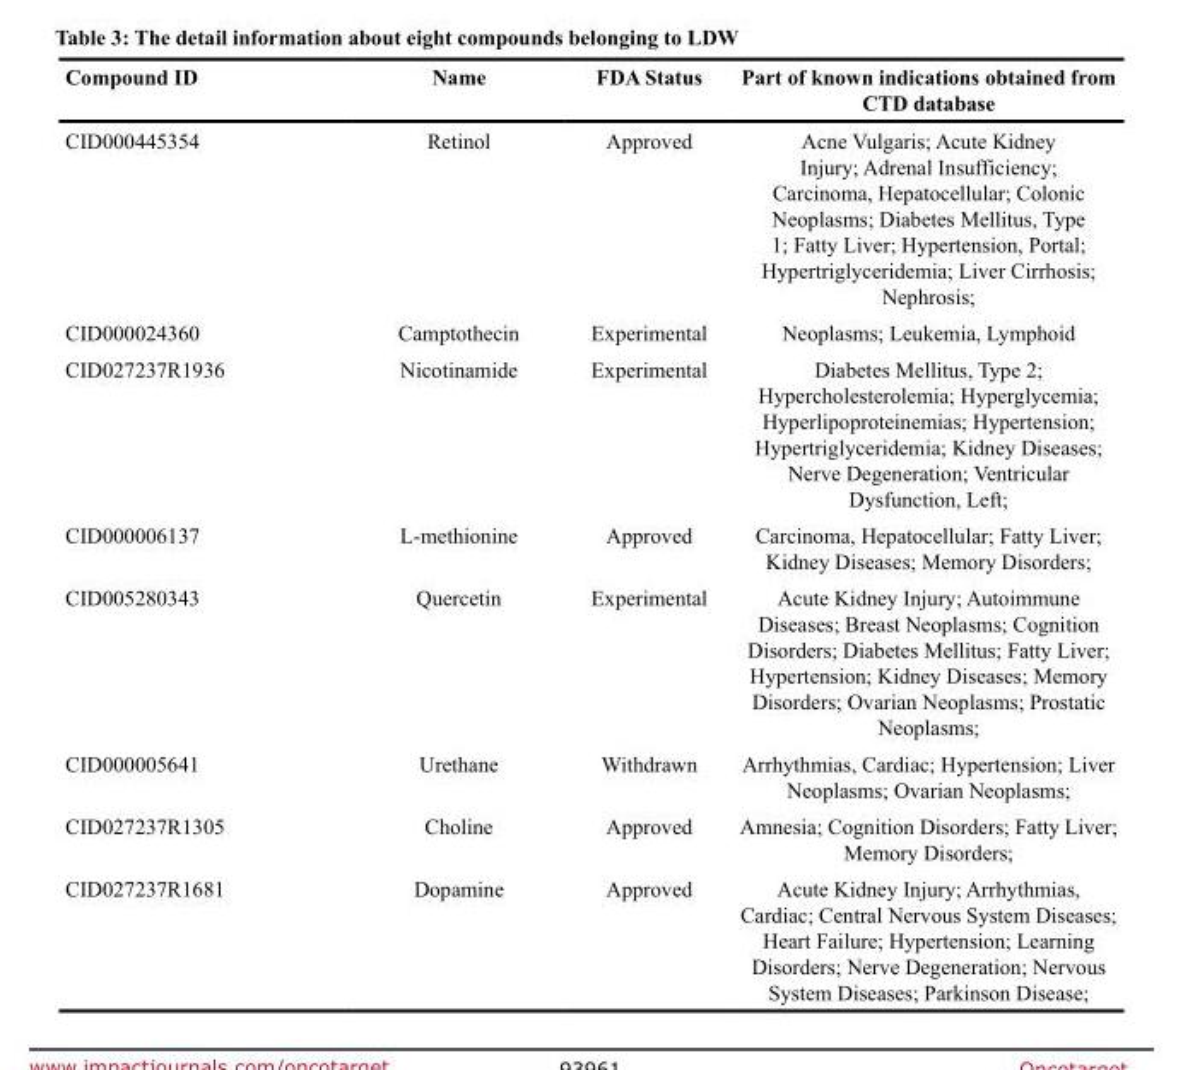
<table><thead><tr><td>Compound ID</td><td>Name</td><td>FDA Status</td><td>Part of known indications obtained from CTD database</td></tr></thead><tbody><tr><td>CID000445354</td><td>Retinol</td><td>Approved</td><td>Acne Vulgaris; Acute Kidney Injury; Adrenal Insufficiency; Carcinoma, Hepatocellular; Colonic Neoplasms; Diabetes Mellitus, Type 1; Fatty Liver; Hypertension, Portal; Hypertriglyceridemia; Liver Cirrhosis; Nephrosis;</td></tr><tr><td>CID000024360</td><td>Camptothecin</td><td>Experimental</td><td>Neoplasms; Leukemia, Lymphoid</td></tr><tr><td>CID027237R1936</td><td>Nicotinamide</td><td>Experimental</td><td>Diabetes Mellitus, Type 2; Hypercholesterolemia; Hyperglycemia; Hyperlipoproteinemias; Hypertension; Hypertriglyceridemia; Kidney Diseases; Nerve Degeneration; Ventricular Dysfunction, Left;</td></tr><tr><td>CID000006137</td><td>L-methionine</td><td>Approved</td><td>Carcinoma, Hepatocellular; Fatty Liver; Kidney Diseases; Memory Disorders;</td></tr><tr><td>CID005280343</td><td>Quercetin</td><td>Experimental</td><td>Acute Kidney Injury; Autoimmune Diseases; Breast Neoplasms; Cognition Disorders; Diabetes Mellitus; Fatty Liver; Hypertension; Kidney Diseases; Memory Disorders; Ovarian Neoplasms; Prostatic Neoplasms;</td></tr><tr><td>CID000005641</td><td>Urethane</td><td>Withdrawn</td><td>Arrhythmias, Cardiac; Hypertension; Liver Neoplasms; Ovarian Neoplasms;</td></tr><tr><td>CID027237R1305</td><td>Choline</td><td>Approved</td><td>Amnesia; Cognition Disorders; Fatty Liver; Memory Disorders;</td></tr><tr><td>CID027237R1681</td><td>Dopamine</td><td>Approved</td><td>Acute Kidney Injury; Arrhythmias, Cardiac; Central Nervous System Diseases; Heart Failure; Hypertension; Learning Disorders; Nerve Degeneration; Nervous System Diseases; Parkinson Disease;</td></tr></tbody></table>